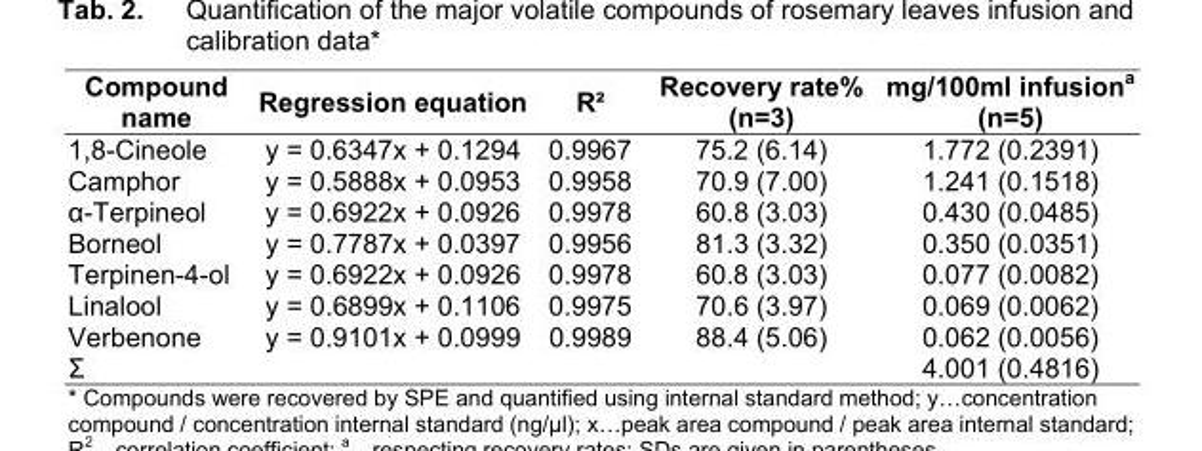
<table><thead><tr><td>Compound name</td><td>Regression equation</td><td>R²</td><td>Recovery rate% (n=3)</td><td>mg/100ml infusion<sup>a</sup> (n=5)</td></tr></thead><tbody><tr><td>1,8-Cineole</td><td>y = 0.6347x + 0.1294</td><td>0.9967</td><td>75.2 (6.14)</td><td>1.772 (0.2391)</td></tr><tr><td>Camphor</td><td>y = 0.5888x + 0.0953</td><td>0.9958</td><td>70.9 (7.00)</td><td>1.241 (0.1518)</td></tr><tr><td>α-Terpineol</td><td>y = 0.6922x + 0.0926</td><td>0.9978</td><td>60.8 (3.03)</td><td>0.430 (0.0485)</td></tr><tr><td>Borneol</td><td>y = 0.7787x + 0.0397</td><td>0.9956</td><td>81.3 (3.32)</td><td>0.350 (0.0351)</td></tr><tr><td>Terpinen-4-ol</td><td>y = 0.6922x + 0.0926</td><td>0.9978</td><td>60.8 (3.03)</td><td>0.077 (0.0082)</td></tr><tr><td>Linalool</td><td>y = 0.6899x + 0.1106</td><td>0.9975</td><td>70.6 (3.97)</td><td>0.069 (0.0062)</td></tr><tr><td>Verbenone</td><td>y = 0.9101x + 0.0999</td><td>0.9989</td><td>88.4 (5.06)</td><td>0.062 (0.0056)</td></tr><tr><td>Σ</td><td></td><td></td><td></td><td>4.001 (0.4816)</td></tr></tbody></table>